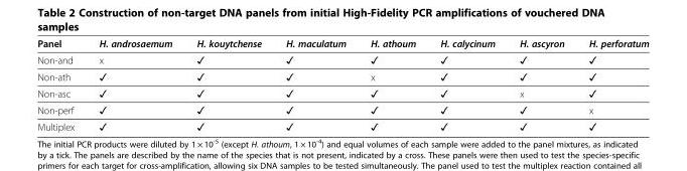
<table><thead><tr><td>Panel</td><td>H. androsaemum</td><td>H. kouytchense</td><td>H. maculatum</td><td>H. athoum</td><td>H. calycinum</td><td>H. ascyron</td><td>H. perforatum</td></tr></thead><tbody><tr><td>Non-and</td><td>x</td><td>✓</td><td>✓</td><td>✓</td><td>✓</td><td>✓</td><td>✓</td></tr><tr><td>Non-ath</td><td>✓</td><td>✓</td><td>✓</td><td>x</td><td>✓</td><td>✓</td><td>✓</td></tr><tr><td>Non-asc</td><td>✓</td><td>✓</td><td>✓</td><td>✓</td><td>✓</td><td>x</td><td>✓</td></tr><tr><td>Non-perf</td><td>✓</td><td>✓</td><td>✓</td><td>✓</td><td>✓</td><td>✓</td><td>x</td></tr><tr><td>Multiplex</td><td>✓</td><td>✓</td><td>✓</td><td>✓</td><td>✓</td><td>✓</td><td>✓</td></tr></tbody></table>